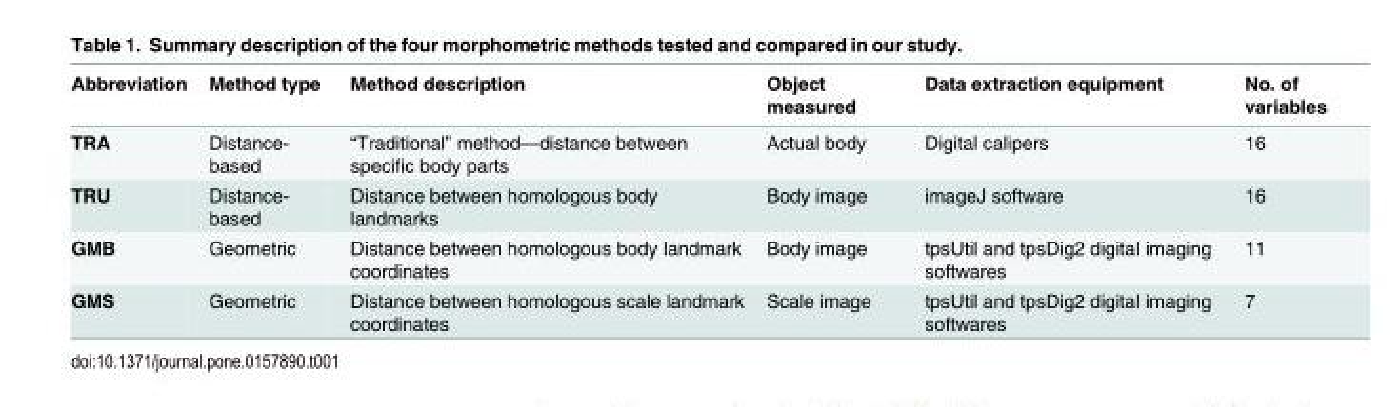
<table><thead><tr><td>Abbreviation</td><td>Method type</td><td>Method description</td><td>Object measured</td><td>Data extraction equipment</td><td>No. of variables</td></tr></thead><tbody><tr><td>TRA</td><td>Distance- based</td><td>“Traditional” method—distance between specific body parts</td><td>Actual body</td><td>Digital calipers</td><td>16</td></tr><tr><td>TRU</td><td>Distance- based</td><td>Distance between homologous body landmarks</td><td>Body image</td><td>imageJ software</td><td>16</td></tr><tr><td>GMB</td><td>Geometric</td><td>Distance between homologous body landmark coordinates</td><td>Body image</td><td>tpsUtil and tpsDig2 digital imaging softwares</td><td>11</td></tr><tr><td>GMS</td><td>Geometric</td><td>Distance between homologous scale landmark coordinates</td><td>Scale image</td><td>tpsUtil and tpsDig2 digital imaging softwares</td><td>7</td></tr></tbody></table>